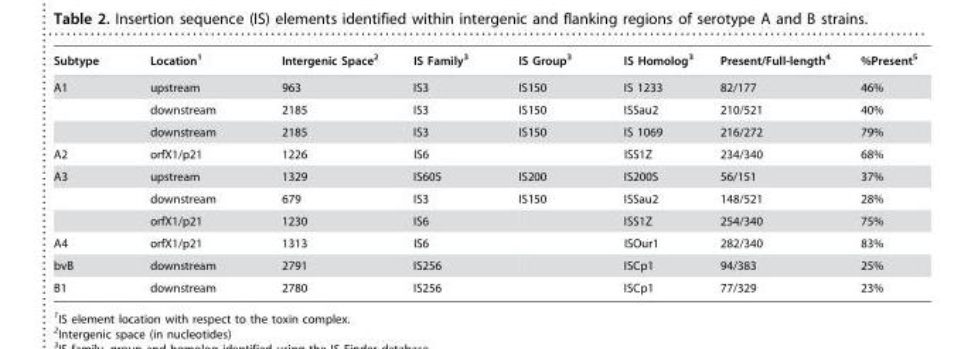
<table><thead><tr><td>Subtype</td><td>Location<sup>1</sup></td><td>Intergenic Space<sup>2</sup></td><td>IS Family<sup>3</sup></td><td>IS Group<sup>3</sup></td><td>IS Homolog<sup>3</sup></td><td>Present/Full-length<sup>4</sup></td><td>%Present<sup>5</sup></td></tr></thead><tbody><tr><td rowspan="3">A1</td><td>upstream</td><td>963</td><td>IS3</td><td>IS150</td><td>IS 1233</td><td>82/177</td><td>46%</td></tr><tr><td>downstream</td><td>2185</td><td>IS3</td><td>IS150</td><td>ISSau2</td><td>210/521</td><td>40%</td></tr><tr><td>downstream</td><td>2185</td><td>IS3</td><td>IS150</td><td>IS 1069</td><td>216/272</td><td>79%</td></tr><tr><td>A2</td><td>orfX1/p21</td><td>1226</td><td>IS6</td><td></td><td>ISS1Z</td><td>234/340</td><td>68%</td></tr><tr><td rowspan="3">A3</td><td>upstream</td><td>1329</td><td>IS605</td><td>IS200</td><td>IS200S</td><td>56/151</td><td>37%</td></tr><tr><td>downstream</td><td>679</td><td>IS3</td><td>IS150</td><td>ISSau2</td><td>148/521</td><td>28%</td></tr><tr><td>orfX1/p21</td><td>1230</td><td>IS6</td><td></td><td>ISS1Z</td><td>254/340</td><td>75%</td></tr><tr><td>A4</td><td>orfX1/p21</td><td>1313</td><td>IS6</td><td></td><td>ISOur1</td><td>282/340</td><td>83%</td></tr><tr><td>bvB</td><td>downstream</td><td>2791</td><td>IS256</td><td></td><td>ISCp1</td><td>94/383</td><td>25%</td></tr><tr><td>B1</td><td>downstream</td><td>2780</td><td>IS256</td><td></td><td>ISCp1</td><td>77/329</td><td>23%</td></tr></tbody></table>